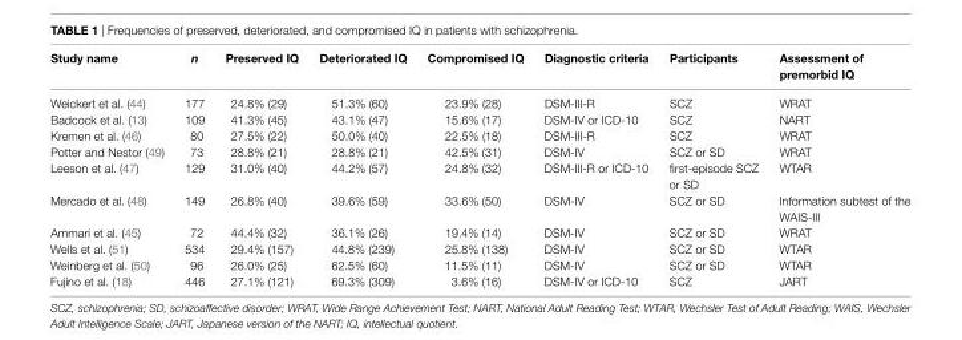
<table><thead><tr><td>Study name</td><td>n</td><td>Preserved iQ</td><td>Deteriorated iQ</td><td>Compromised iQ</td><td>Diagnostic criteria</td><td>Participants</td><td>Assessment of premorbid iQ</td></tr></thead><tbody><tr><td>Weickert et al. (44)</td><td>177</td><td>24.8% (29)</td><td>51.3% (60)</td><td>23.9% (28)</td><td>DSM-III-R</td><td>SCZ</td><td>WRAT</td></tr><tr><td>Badcock et al. (13)</td><td>109</td><td>41.3% (45)</td><td>43.1% (47)</td><td>15.6% (17)</td><td>DSM-IV or ICD-10</td><td>SCZ</td><td>NART</td></tr><tr><td>Kremen et al. (46)</td><td>80</td><td>27.5% (22)</td><td>50.0% (40)</td><td>22.5% (18)</td><td>DSM-III-R</td><td>SCZ</td><td>WRAT</td></tr><tr><td>Potter and Nestor (49)</td><td>73</td><td>28.8% (21)</td><td>28.8% (21)</td><td>42.5% (31)</td><td>DSM-IV</td><td>SCZ or SD</td><td>WRAT</td></tr><tr><td>Leeson et al. (47)</td><td>129</td><td>31.0% (40)</td><td>44.2% (57)</td><td>24.8% (32)</td><td>DSM-III-R or ICD-10</td><td>first-episode SCZ or SD</td><td>WTAR</td></tr><tr><td>Mercado et al. (48)</td><td>149</td><td>26.8% (40)</td><td>39.6% (59)</td><td>33.6% (50)</td><td>DSM-IV</td><td>SCZ or SD</td><td>Information subtest of the WAIS-III</td></tr><tr><td>Ammari et al. (45)</td><td>72</td><td>44.4% (32)</td><td>36.1% (26)</td><td>19.4% (14)</td><td>DSM-IV</td><td>SCZ or SD</td><td>WRAT</td></tr><tr><td>Wells et al. (51)</td><td>534</td><td>29.4% (157)</td><td>44.8% (239)</td><td>25.8% (138)</td><td>DSM-IV</td><td>SCZ or SD</td><td>WTAR</td></tr><tr><td>Weinberg et al. (50)</td><td>96</td><td>26.0% (25)</td><td>62.5% (60)</td><td>11.5% (11)</td><td>DSM-IV</td><td>SCZ or SD</td><td>WTAR</td></tr><tr><td>Fujino et al. (18)</td><td>446</td><td>27.1% (121)</td><td>69.3% (309)</td><td>3.6% (16)</td><td>DSM-IV or ICD-10</td><td>SCZ</td><td>JART</td></tr></tbody></table>